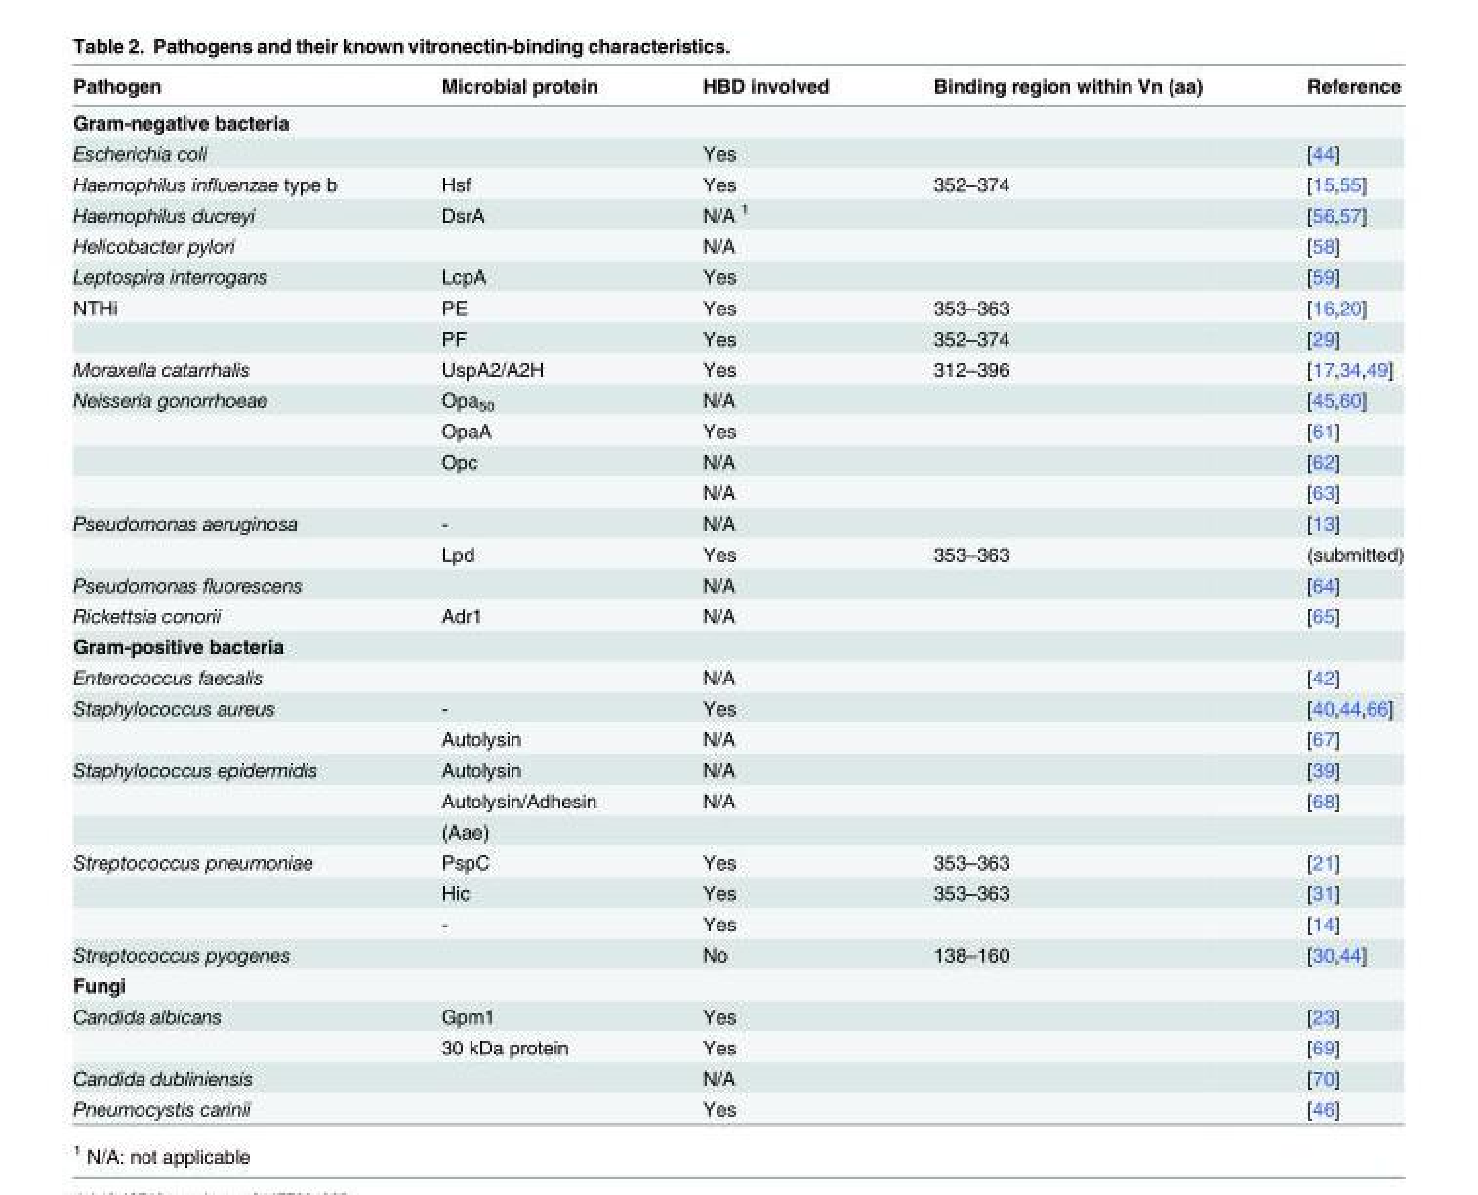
<table><thead><tr><td>Pathogen</td><td>Microbial protein</td><td>HBD involved</td><td>Binding region within Vn (aa)</td><td>Reference</td></tr></thead><tbody><tr><td colspan="5">Gram-negative bacteria</td></tr><tr><td>Escherichia coli</td><td></td><td>Yes</td><td></td><td>[44]</td></tr><tr><td>Haemophilus influenzae type b</td><td>Hsf</td><td>Yes</td><td>352–374</td><td>[15,55]</td></tr><tr><td>Haemophilus ducreyi</td><td>DsrA</td><td>N/A <sup>1</sup></td><td></td><td>[56,57]</td></tr><tr><td>Helicobacter pylori</td><td></td><td>N/A</td><td></td><td>[58]</td></tr><tr><td>Leptospira interrogans</td><td>LcpA</td><td>Yes</td><td></td><td>[59]</td></tr><tr><td rowspan="2">NTHi</td><td>PE</td><td>Yes</td><td>353–363</td><td>[16,20]</td></tr><tr><td>PF</td><td>Yes</td><td>352–374</td><td>[29]</td></tr><tr><td>Moraxella catarrhalis</td><td>UspA2/A2H</td><td>Yes</td><td>312–396</td><td>[17,34,49]</td></tr><tr><td rowspan="4">Neisseria gonorrhoeae</td><td>Opa<sub>50</sub></td><td>N/A</td><td></td><td>[45,60]</td></tr><tr><td>OpaA</td><td>Yes</td><td></td><td>[61]</td></tr><tr><td>Opc</td><td>N/A</td><td></td><td>[62]</td></tr><tr><td></td><td>N/A</td><td></td><td>[63]</td></tr><tr><td rowspan="2">Pseudomonas aeruginosa</td><td>-</td><td>N/A</td><td></td><td>[13]</td></tr><tr><td>Lpd</td><td>Yes</td><td>353–363</td><td>(submitted)</td></tr><tr><td>Pseudomonas fluorescens</td><td></td><td>N/A</td><td></td><td>[64]</td></tr><tr><td>Rickettsia conorii</td><td>Adr1</td><td>N/A</td><td></td><td>[65]</td></tr><tr><td colspan="5">Gram-positive bacteria</td></tr><tr><td>Enterococcus faecalis</td><td></td><td>N/A</td><td></td><td>[42]</td></tr><tr><td rowspan="2">Staphylococcus aureus</td><td>-</td><td>Yes</td><td></td><td>[40,44,66]</td></tr><tr><td>Autolysin</td><td>N/A</td><td></td><td>[67]</td></tr><tr><td rowspan="3">Staphylococcus epidermidis</td><td>Autolysin</td><td>N/A</td><td></td><td>[39]</td></tr><tr><td>Autolysin/Adhesin</td><td>N/A</td><td></td><td>[68]</td></tr><tr><td>(Aae)</td><td></td><td></td><td></td></tr><tr><td rowspan="3">Streptococcus pneumoniae</td><td>PspC</td><td>Yes</td><td>353–363</td><td>[21]</td></tr><tr><td>Hic</td><td>Yes</td><td>353–363</td><td>[31]</td></tr><tr><td>-</td><td>Yes</td><td></td><td>[14]</td></tr><tr><td>Streptococcus pyogenes</td><td></td><td>No</td><td>138–160</td><td>[30,44]</td></tr><tr><td colspan="5">Fungi</td></tr><tr><td rowspan="2">Candida albicans</td><td>Gpm1</td><td>Yes</td><td></td><td>[23]</td></tr><tr><td>30 kDa protein</td><td>Yes</td><td></td><td>[69]</td></tr><tr><td>Candida dubliniensis</td><td></td><td>N/A</td><td></td><td>[70]</td></tr><tr><td>Pneumocystis carinii</td><td></td><td>Yes</td><td></td><td>[46]</td></tr></tbody></table>